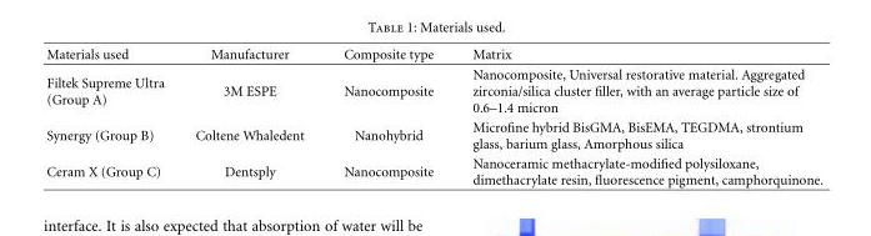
<table><thead><tr><td>Materials used</td><td>Manufacturer</td><td>Composite type</td><td>Matrix</td></tr></thead><tbody><tr><td>Filtek Supreme Ultra (Group A)</td><td>3M ESPE</td><td>Nanocomposite</td><td>Nanocomposite, Universal restorative material. Aggregated zirconia/silica cluster filler, with an average particle size of 0.6–1.4 micron</td></tr><tr><td>Synergy (Group B)</td><td>Coltene Whaledent</td><td>Nanohybrid</td><td>Microfine hybrid BisGMA, BisEMA, TEGDMA, strontium glass, barium glass, Amorphous silica</td></tr><tr><td>Ceram X (Group C)</td><td>Dentsply</td><td>Nanocomposite</td><td>Nanoceramic methacrylate-modified polysiloxane, dimethacrylate resin, fluorescence pigment, camphorquinone.</td></tr></tbody></table>